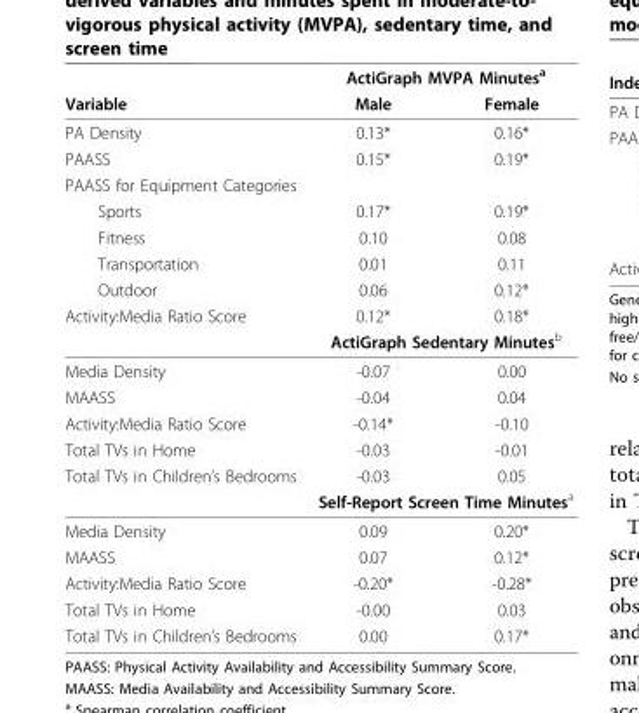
<table><thead><tr><td rowspan="2">Variable</td><td colspan="2">ActiGraph MVPA Minutes<sup>a</sup></td></tr><tr><td>Male</td><td>Female</td></tr></thead><tbody><tr><td>PA Density</td><td>0.13*</td><td>0.16*</td></tr><tr><td>PAASS</td><td>0.15*</td><td>0.19*</td></tr><tr><td colspan="3">PAASS for Equipment Categories</td></tr><tr><td>Sports</td><td>0.17*</td><td>0.19*</td></tr><tr><td>Fitness</td><td>0.10</td><td>0.08</td></tr><tr><td>Transportation</td><td>0.01</td><td>0.11</td></tr><tr><td>Outdoor</td><td>0.06</td><td>0.12*</td></tr><tr><td rowspan="2">Activity:Media Ratio Score</td><td>0.12*</td><td>0.18*</td></tr><tr><td colspan="2">ActiGraph Sedentary Minutes<sup>b</sup></td></tr><tr><td>Media Density</td><td>-0.07</td><td>0.00</td></tr><tr><td>MAASS</td><td>-0.04</td><td>0.04</td></tr><tr><td>Activity:Media Ratio Score</td><td>-0.14*</td><td>-0.10</td></tr><tr><td>Total TVs in Home</td><td>-0.03</td><td>-0.01</td></tr><tr><td rowspan="2">Total TVs in Children’s Bedrooms</td><td>-0.03</td><td>0.05</td></tr><tr><td colspan="2">Self-Report Screen Time Minutes<sup>a</sup></td></tr><tr><td>Media Density</td><td>0.09</td><td>0.20*</td></tr><tr><td>MAASS</td><td>0.07</td><td>0.12*</td></tr><tr><td>Activity:Media Ratio Score</td><td>-0.20*</td><td>-0.28*</td></tr><tr><td>Total TVs in Home</td><td>-0.00</td><td>0.03</td></tr><tr><td>Total TVs in Children’s Bedrooms</td><td>0.00</td><td>0.17*</td></tr></tbody></table>